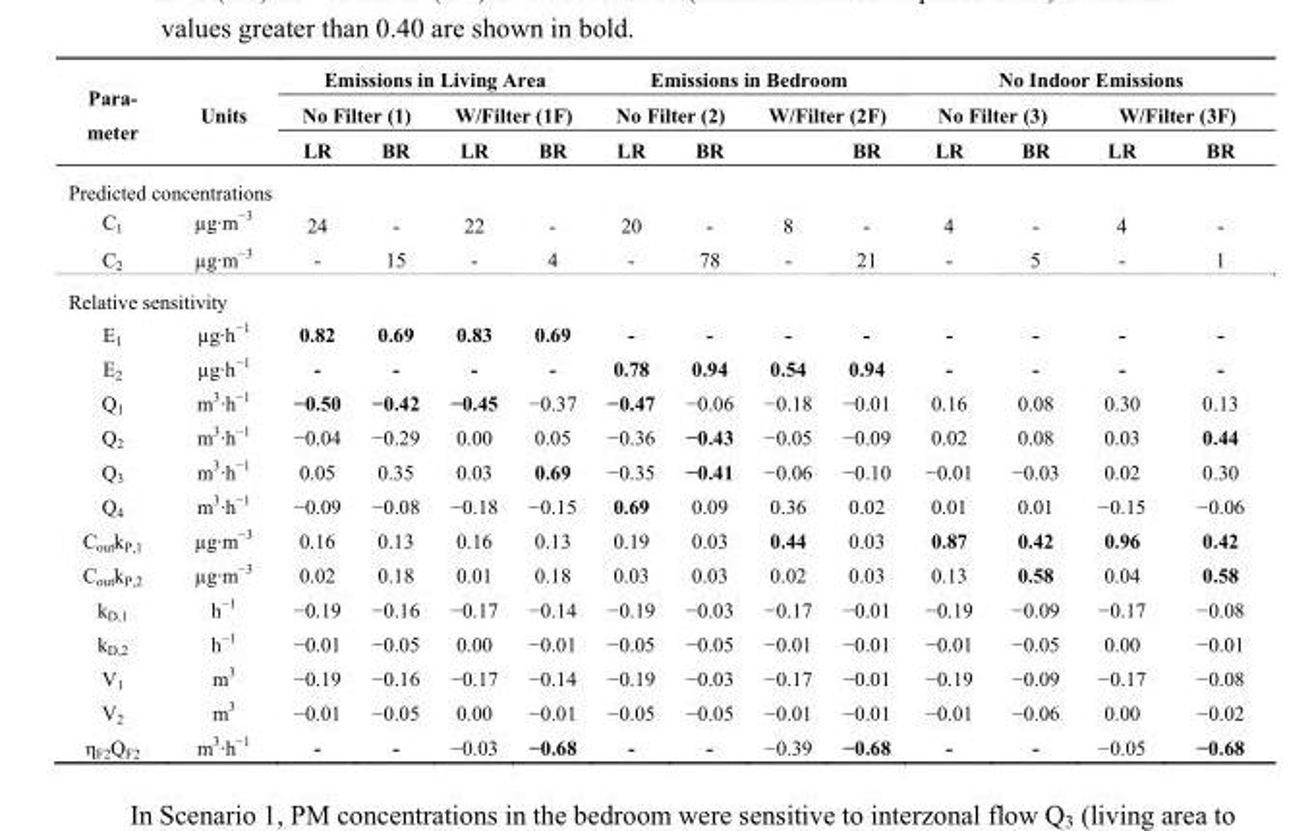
<table><thead><tr><td rowspan="3">Para- meter</td><td rowspan="3">Units</td><td colspan="4">Emissions in Living Area</td><td colspan="4">Emissions in Bedroom</td><td colspan="4">No Indoor Emissions</td></tr><tr><td colspan="2">No Filter (1)</td><td colspan="2">W/Filter (1F)</td><td colspan="2">No Filter (2)</td><td colspan="2">W/Filter (2F)</td><td colspan="2">No Filter (3)</td><td colspan="2">W/Filter (3F)</td></tr><tr><td>LR</td><td>BR</td><td>LR</td><td>BR</td><td>LR</td><td>BR</td><td></td><td>BR</td><td>LR</td><td>BR</td><td>LR</td><td>BR</td></tr></thead><tbody><tr><td colspan="14">Predicted concentrations</td></tr><tr><td>C<sub>1</sub></td><td>µg·m<sup>−3</sup></td><td>24</td><td>-</td><td>22</td><td>-</td><td>20</td><td>-</td><td>8</td><td>-</td><td>4</td><td>-</td><td>4</td><td>-</td></tr><tr><td>C<sub>2</sub></td><td>µg·m<sup>−3</sup></td><td>-</td><td>15</td><td>-</td><td>4</td><td>-</td><td>78</td><td>-</td><td>21</td><td>-</td><td>5</td><td>-</td><td>1</td></tr><tr><td colspan="14">Relative sensitivity</td></tr><tr><td>E<sub>1</sub></td><td>µg·h<sup>−1</sup></td><td>0.82</td><td>0.69</td><td>0.83</td><td>0.69</td><td>-</td><td>-</td><td>-</td><td>-</td><td>-</td><td>-</td><td>-</td><td>-</td></tr><tr><td>E<sub>2</sub></td><td>µg·h<sup>−1</sup></td><td>-</td><td>-</td><td>-</td><td>-</td><td>0.78</td><td>0.94</td><td>0.54</td><td>0.94</td><td>-</td><td>-</td><td>-</td><td>-</td></tr><tr><td>Q<sub>1</sub></td><td>m<sup>3</sup>·h<sup>−1</sup></td><td>−0.50</td><td>−0.42</td><td>−0.45</td><td>−0.37</td><td>−0.47</td><td>−0.06</td><td>−0.18</td><td>−0.01</td><td>0.16</td><td>0.08</td><td>0.30</td><td>0.13</td></tr><tr><td>Q<sub>2</sub></td><td>m<sup>3</sup>·h<sup>−1</sup></td><td>−0.04</td><td>−0.29</td><td>0.00</td><td>0.05</td><td>−0.36</td><td>−0.43</td><td>−0.05</td><td>−0.09</td><td>0.02</td><td>0.08</td><td>0.03</td><td>0.44</td></tr><tr><td>Q<sub>3</sub></td><td>m<sup>3</sup>·h<sup>−1</sup></td><td>0.05</td><td>0.35</td><td>0.03</td><td>0.69</td><td>−0.35</td><td>−0.41</td><td>−0.06</td><td>−0.10</td><td>−0.01</td><td>−0.03</td><td>0.02</td><td>0.30</td></tr><tr><td>Q<sub>4</sub></td><td>m<sup>3</sup>·h<sup>−1</sup></td><td>−0.09</td><td>−0.08</td><td>−0.18</td><td>−0.15</td><td>0.69</td><td>0.09</td><td>0.36</td><td>0.02</td><td>0.01</td><td>0.01</td><td>−0.15</td><td>−0.06</td></tr><tr><td>C<sub>out</sub>k<sub>P,1</sub></td><td>µg·m<sup>−3</sup></td><td>0.16</td><td>0.13</td><td>0.16</td><td>0.13</td><td>0.19</td><td>0.03</td><td>0.44</td><td>0.03</td><td>0.87</td><td>0.42</td><td>0.96</td><td>0.42</td></tr><tr><td>C<sub>out</sub>k<sub>P,2</sub></td><td>µg·m<sup>−3</sup></td><td>0.02</td><td>0.18</td><td>0.01</td><td>0.18</td><td>0.03</td><td>0.03</td><td>0.02</td><td>0.03</td><td>0.13</td><td>0.58</td><td>0.04</td><td>0.58</td></tr><tr><td>k<sub>D,1</sub></td><td>h<sup>−1</sup></td><td>−0.19</td><td>−0.16</td><td>−0.17</td><td>−0.14</td><td>−0.19</td><td>−0.03</td><td>−0.17</td><td>−0.01</td><td>−0.19</td><td>−0.09</td><td>−0.17</td><td>−0.08</td></tr><tr><td>k<sub>D,2</sub></td><td>h<sup>−1</sup></td><td>−0.01</td><td>−0.05</td><td>0.00</td><td>−0.01</td><td>−0.05</td><td>−0.05</td><td>−0.01</td><td>−0.01</td><td>−0.01</td><td>−0.05</td><td>0.00</td><td>−0.01</td></tr><tr><td>V<sub>1</sub></td><td>m<sup>3</sup></td><td>−0.19</td><td>−0.16</td><td>−0.17</td><td>−0.14</td><td>−0.19</td><td>−0.03</td><td>−0.17</td><td>−0.01</td><td>−0.19</td><td>−0.09</td><td>−0.17</td><td>−0.08</td></tr><tr><td>V<sub>2</sub></td><td>m<sup>3</sup></td><td>−0.01</td><td>−0.05</td><td>0.00</td><td>−0.01</td><td>−0.05</td><td>−0.05</td><td>−0.01</td><td>−0.01</td><td>−0.01</td><td>−0.06</td><td>0.00</td><td>−0.02</td></tr><tr><td>η<sub>F2</sub>Q<sub>F2</sub></td><td>m<sup>3</sup>·h<sup>−1</sup></td><td>-</td><td>-</td><td>−0.03</td><td>−0.68</td><td>-</td><td>-</td><td>−0.39</td><td>−0.68</td><td>-</td><td>-</td><td>−0.05</td><td>−0.68</td></tr></tbody></table>